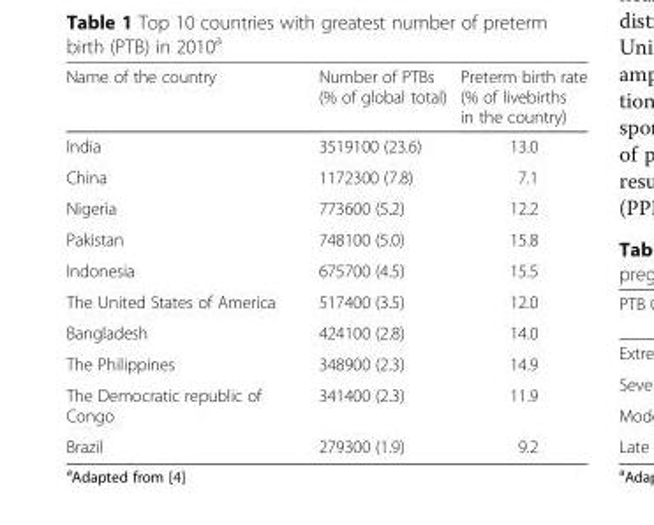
<table><thead><tr><td>Name of the country</td><td>Number of PTBs (% of global total)</td><td>Preterm birth rate (% of livebirths in the country)</td></tr></thead><tbody><tr><td>India</td><td>3519100 (23.6)</td><td>13.0</td></tr><tr><td>China</td><td>1172300 (7.8)</td><td>7.1</td></tr><tr><td>Nigeria</td><td>773600 (5.2)</td><td>12.2</td></tr><tr><td>Pakistan</td><td>748100 (5.0)</td><td>15.8</td></tr><tr><td>Indonesia</td><td>675700 (4.5)</td><td>15.5</td></tr><tr><td>The United States of America</td><td>517400 (3.5)</td><td>12.0</td></tr><tr><td>Bangladesh</td><td>424100 (2.8)</td><td>14.0</td></tr><tr><td>The Philippines</td><td>348900 (2.3)</td><td>14.9</td></tr><tr><td>The Democratic republic of Congo</td><td>341400 (2.3)</td><td>11.9</td></tr><tr><td>Brazil</td><td>279300 (1.9)</td><td>9.2</td></tr></tbody></table>